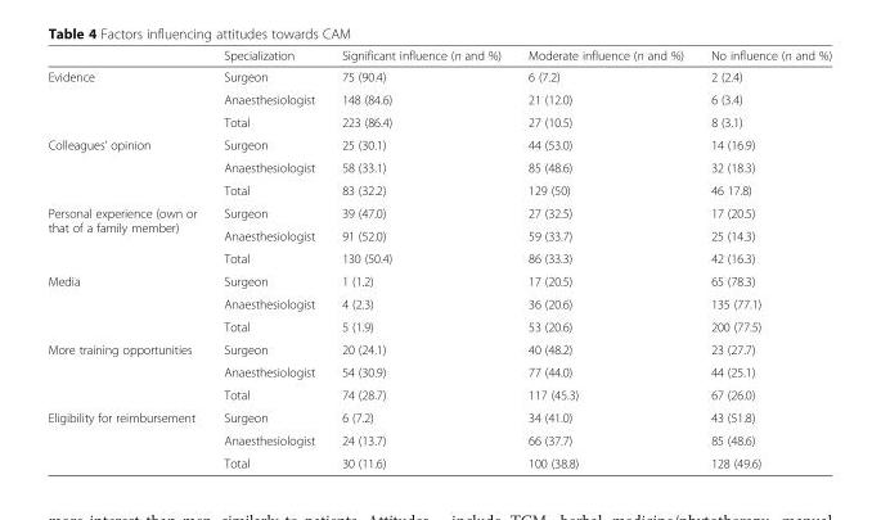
<table><thead><tr><td></td><td>Specialization</td><td>Significant influence (n and %)</td><td>Moderate influence (n and %)</td><td>No influence (n and %)</td></tr></thead><tbody><tr><td rowspan="3">Evidence</td><td>Surgeon</td><td>75 (90.4)</td><td>6 (7.2)</td><td>2 (2.4)</td></tr><tr><td>Anaesthesiologist</td><td>148 (84.6)</td><td>21 (12.0)</td><td>6 (3.4)</td></tr><tr><td>Total</td><td>223 (86.4)</td><td>27 (10.5)</td><td>8 (3.1)</td></tr><tr><td rowspan="3">Colleagues’ opinion</td><td>Surgeon</td><td>25 (30.1)</td><td>44 (53.0)</td><td>14 (16.9)</td></tr><tr><td>Anaesthesiologist</td><td>58 (33.1)</td><td>85 (48.6)</td><td>32 (18.3)</td></tr><tr><td>Total</td><td>83 (32.2)</td><td>129 (50)</td><td>46 17.8)</td></tr><tr><td rowspan="3">Personal experience (own or that of a family member)</td><td>Surgeon</td><td>39 (47.0)</td><td>27 (32.5)</td><td>17 (20.5)</td></tr><tr><td>Anaesthesiologist</td><td>91 (52.0)</td><td>59 (33.7)</td><td>25 (14.3)</td></tr><tr><td>Total</td><td>130 (50.4)</td><td>86 (33.3)</td><td>42 (16.3)</td></tr><tr><td rowspan="3">Media</td><td>Surgeon</td><td>1 (1.2)</td><td>17 (20.5)</td><td>65 (78.3)</td></tr><tr><td>Anaesthesiologist</td><td>4 (2.3)</td><td>36 (20.6)</td><td>135 (77.1)</td></tr><tr><td>Total</td><td>5 (1.9)</td><td>53 (20.6)</td><td>200 (77.5)</td></tr><tr><td rowspan="3">More training opportunities</td><td>Surgeon</td><td>20 (24.1)</td><td>40 (48.2)</td><td>23 (27.7)</td></tr><tr><td>Anaesthesiologist</td><td>54 (30.9)</td><td>77 (44.0)</td><td>44 (25.1)</td></tr><tr><td>Total</td><td>74 (28.7)</td><td>117 (45.3)</td><td>67 (26.0)</td></tr><tr><td rowspan="3">Eligibility for reimbursement</td><td>Surgeon</td><td>6 (7.2)</td><td>34 (41.0)</td><td>43 (51.8)</td></tr><tr><td>Anaesthesiologist</td><td>24 (13.7)</td><td>66 (37.7)</td><td>85 (48.6)</td></tr><tr><td>Total</td><td>30 (11.6)</td><td>100 (38.8)</td><td>128 (49.6)</td></tr></tbody></table>